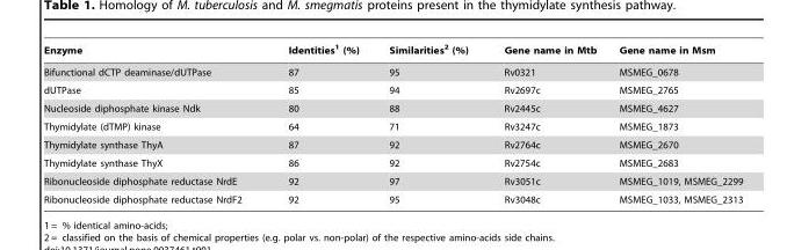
<table><thead><tr><td>Enzyme</td><td>Identities<sup>1</sup> (%)</td><td>Similarities<sup>2</sup> (%)</td><td>Gene name in Mtb</td><td>Gene name in Msm</td></tr></thead><tbody><tr><td>Bifunctional dCTP deaminase/dUTPase</td><td>87</td><td>95</td><td>Rv0321</td><td>MSMEG_0678</td></tr><tr><td>dUTPase</td><td>85</td><td>94</td><td>Rv2697c</td><td>MSMEG_2765</td></tr><tr><td>Nucleoside diphosphate kinase Ndk</td><td>80</td><td>88</td><td>Rv2445c</td><td>MSMEG_4627</td></tr><tr><td>Thymidylate (dTMP) kinase</td><td>64</td><td>71</td><td>Rv3247c</td><td>MSMEG_1873</td></tr><tr><td>Thymidylate synthase ThyA</td><td>87</td><td>92</td><td>Rv2764c</td><td>MSMEG_2670</td></tr><tr><td>Thymidylate synthase ThyX</td><td>86</td><td>92</td><td>Rv2754c</td><td>MSMEG_2683</td></tr><tr><td>Ribonucleoside diphosphate reductase NrdE</td><td>92</td><td>97</td><td>Rv3051c</td><td>MSMEG_1019, MSMEG_2299</td></tr><tr><td>Ribonucleoside diphosphate reductase NrdF2</td><td>92</td><td>95</td><td>Rv3048c</td><td>MSMEG_1033, MSMEG_2313</td></tr></tbody></table>